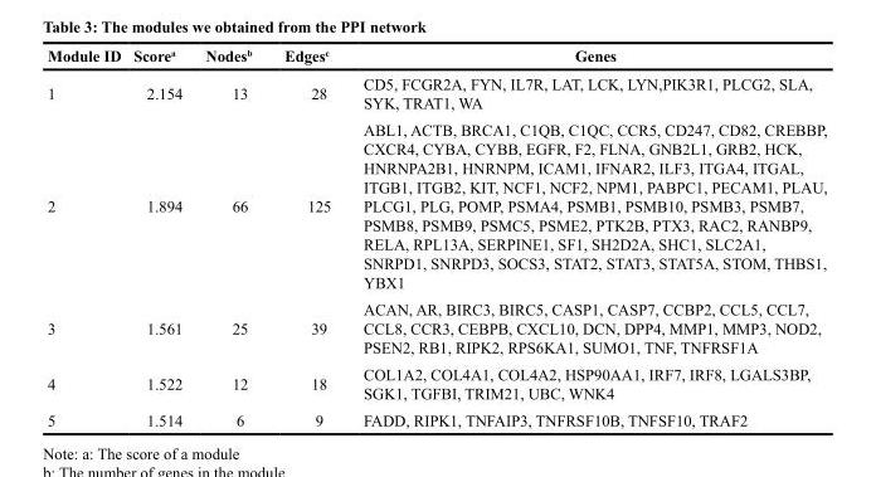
<table><thead><tr><td>Module ID</td><td>Score<sup>a</sup></td><td>Nodes<sup>b</sup></td><td>Edges<sup>c</sup></td><td>Genes</td></tr></thead><tbody><tr><td>1</td><td>2.154</td><td>13</td><td>28</td><td>CD5, FCGR2A, FYN, IL7R, LAT, LCK, LYN,PIK3R1, PLCG2, SLA, SYK, TRAT1, WA</td></tr><tr><td>2</td><td>1.894</td><td>66</td><td>125</td><td>ABL1, ACTB, BRCA1, C1QB, C1QC, CCR5, CD247, CD82, CREBBP, CXCR4, CYBA, CYBB, EGFR, F2, FLNA, GNB2L1, GRB2, HCK, HNRNPA2B1, HNRNPM, ICAM1, IFNAR2, ILF3, ITGA4, ITGAL, ITGB1, ITGB2, KIT, NCF1, NCF2, NPM1, PABPC1, PECAM1, PLAU, PLCG1, PLG, POMP, PSMA4, PSMB1, PSMB10, PSMB3, PSMB7, PSMB8, PSMB9, PSMC5, PSME2, PTK2B, PTX3, RAC2, RANBP9, RELA, RPL13A, SERPINE1, SF1, SH2D2A, SHC1, SLC2A1, SNRPD1, SNRPD3, SOCS3, STAT2, STAT3, STAT5A, STOM, THBS1, YBX1</td></tr><tr><td>3</td><td>1.561</td><td>25</td><td>39</td><td>ACAN, AR, BIRC3, BIRC5, CASP1, CASP7, CCBP2, CCL5, CCL7, CCL8, CCR3, CEBPB, CXCL10, DCN, DPP4, MMP1, MMP3, NOD2, PSEN2, RB1, RIPK2, RPS6KA1, SUMO1, TNF, TNFRSF1A</td></tr><tr><td>4</td><td>1.522</td><td>12</td><td>18</td><td>COL1A2, COL4A1, COL4A2, HSP90AA1, IRF7, IRF8, LGALS3BP, SGK1, TGFBI, TRIM21, UBC, WNK4</td></tr><tr><td>5</td><td>1.514</td><td>6</td><td>9</td><td>FADD, RIPK1, TNFAIP3, TNFRSF10B, TNFSF10, TRAF2</td></tr></tbody></table>